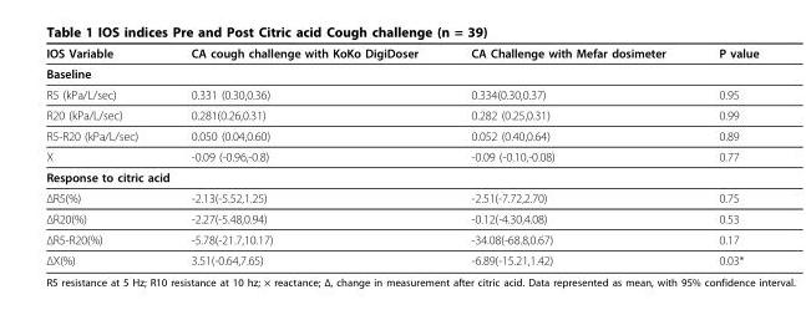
<table><thead><tr><td>IOS Variable</td><td>CA cough challenge with KoKo DigiDoser</td><td>CA Challenge with Mefar dosimeter</td><td>P value</td></tr></thead><tbody><tr><td colspan="4">Baseline</td></tr><tr><td>R5 (kPa/L/sec)</td><td>0.331 (0.30,0.36)</td><td>0.334(0.30,0.37)</td><td>0.95</td></tr><tr><td>R20 (kPa/L/sec)</td><td>0.281(0.26,0.31)</td><td>0.282 (0.25,0.31)</td><td>0.99</td></tr><tr><td>R5-R20 (kPa/L/sec)</td><td>0.050 (0.04,0.60)</td><td>0.052 (0.40,0.64)</td><td>0.89</td></tr><tr><td>X</td><td>-0.09 (-0.96,-0.8)</td><td>-0.09 (-0.10,-0.08)</td><td>0.77</td></tr><tr><td colspan="4">Response to citric acid</td></tr><tr><td>ΔR5(%)</td><td>-2.13(-5.52,1.25)</td><td>-2.51(-7.72,2.70)</td><td>0.75</td></tr><tr><td>ΔR20(%)</td><td>-2.27(-5.48,0.94)</td><td>-0.12(-4.30,4.08)</td><td>0.53</td></tr><tr><td>ΔR5-R20(%)</td><td>-5.78(-21.7,10.17)</td><td>-34.08(-68.8,0.67)</td><td>0.17</td></tr><tr><td>ΔX(%)</td><td>3.51(-0.64,7.65)</td><td>-6.89(-15.21,1.42)</td><td>0.03*</td></tr></tbody></table>